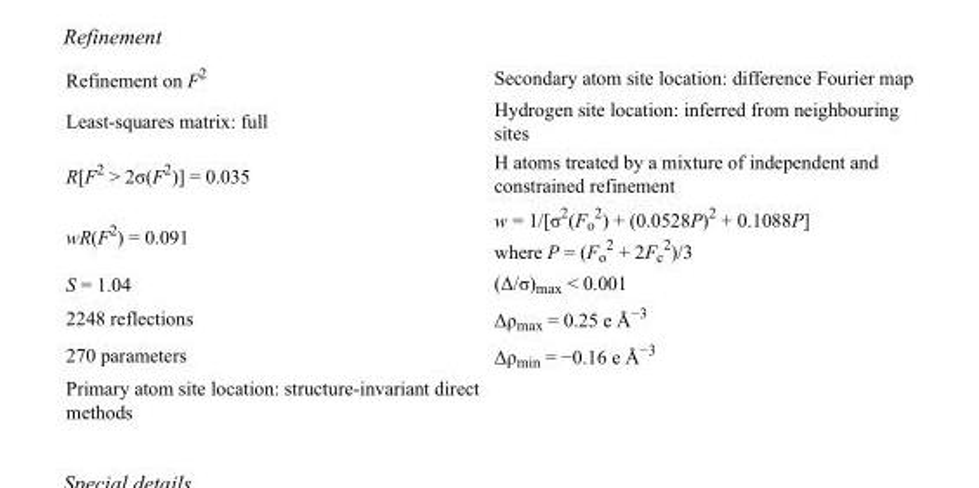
<table><tbody><tr><td>Refinement on F<sup>2</sup></td><td>Secondary atom site location: difference Fourier map</td></tr><tr><td>Least-squares matrix: full</td><td>Hydrogen site location: inferred from neighbouring sites</td></tr><tr><td>R[F<sup>2</sup> &gt; 2σ(F<sup>2</sup>)] = 0.035</td><td>H atoms treated by a mixture of independent and constrained refinement</td></tr><tr><td>wR(F<sup>2</sup>) = 0.091</td><td>w = 1/[σ<sup>2</sup>(F<sub>o</sub> <sup>2</sup>) + (0.0528P)<sup>2</sup> + 0.1088P] where P = (F<sub>o</sub> <sup>2</sup> + 2F<sub>c</sub> <sup>2</sup>)/3</td></tr><tr><td>S = 1.04</td><td>(Δ/σ)<sub>max</sub> &lt; 0.001</td></tr><tr><td>2248 reflections</td><td>Δρ<sub>max</sub> = 0.25 e Å<sup>−3</sup></td></tr><tr><td>270 parameters</td><td>Δρ<sub>min</sub> = −0.16 e Å<sup>−3</sup></td></tr><tr><td>Primary atom site location: structure-invariant direct methods</td><td></td></tr></tbody></table>